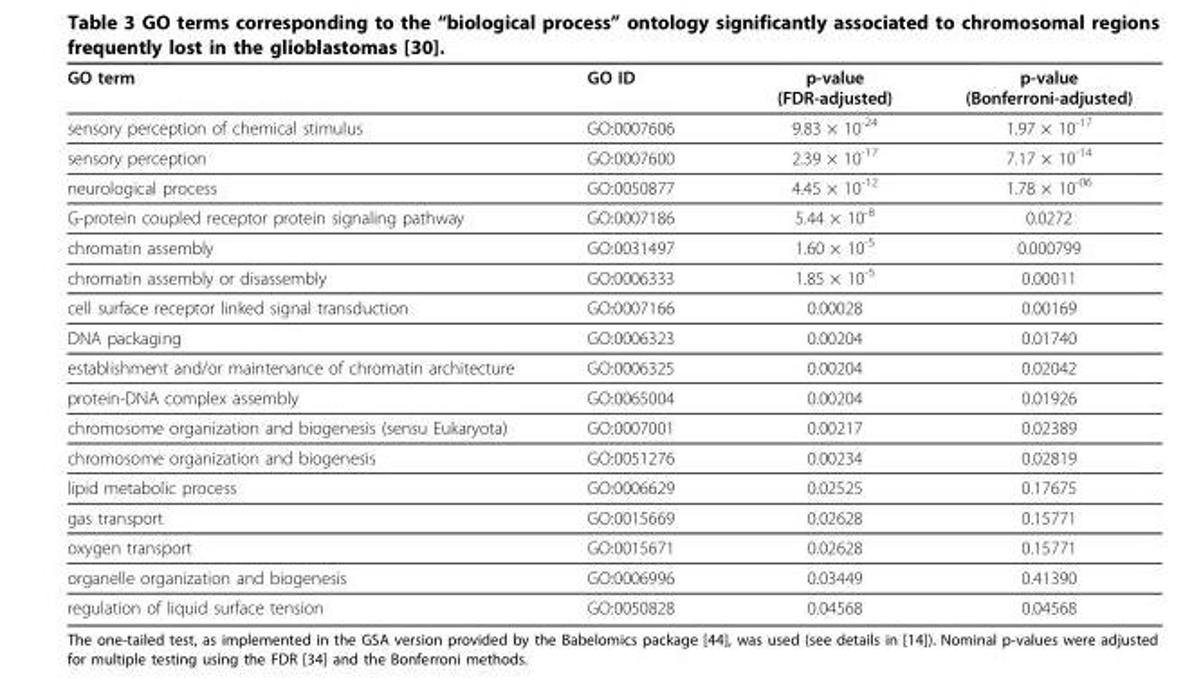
<table><thead><tr><td>GO term</td><td>GO ID</td><td>p-value (FDR-adjusted)</td><td>p-value (Bonferroni-adjusted)</td></tr></thead><tbody><tr><td>sensory perception of chemical stimulus</td><td>GO:0007606</td><td>9.83 × 10<sup>-24</sup></td><td>1.97 × 10<sup>-17</sup></td></tr><tr><td>sensory perception</td><td>GO:0007600</td><td>2.39 × 10<sup>-17</sup></td><td>7.17 × 10<sup>-14</sup></td></tr><tr><td>neurological process</td><td>GO:0050877</td><td>4.45 × 10<sup>-12</sup></td><td>1.78 × 10<sup>-06</sup></td></tr><tr><td>G-protein coupled receptor protein signaling pathway</td><td>GO:0007186</td><td>5.44 × 10<sup>-8</sup></td><td>0.0272</td></tr><tr><td>chromatin assembly</td><td>GO:0031497</td><td>1.60 × 10<sup>-5</sup></td><td>0.000799</td></tr><tr><td>chromatin assembly or disassembly</td><td>GO:0006333</td><td>1.85 × 10<sup>-5</sup></td><td>0.00011</td></tr><tr><td>cell surface receptor linked signal transduction</td><td>GO:0007166</td><td>0.00028</td><td>0.00169</td></tr><tr><td>DNA packaging</td><td>GO:0006323</td><td>0.00204</td><td>0.01740</td></tr><tr><td>establishment and/or maintenance of chromatin architecture</td><td>GO:0006325</td><td>0.00204</td><td>0.02042</td></tr><tr><td>protein-DNA complex assembly</td><td>GO:0065004</td><td>0.00204</td><td>0.01926</td></tr><tr><td>chromosome organization and biogenesis (sensu Eukaryota)</td><td>GO:0007001</td><td>0.00217</td><td>0.02389</td></tr><tr><td>chromosome organization and biogenesis</td><td>GO:0051276</td><td>0.00234</td><td>0.02819</td></tr><tr><td>lipid metabolic process</td><td>GO:0006629</td><td>0.02525</td><td>0.17675</td></tr><tr><td>gas transport</td><td>GO:0015669</td><td>0.02628</td><td>0.15771</td></tr><tr><td>oxygen transport</td><td>GO:0015671</td><td>0.02628</td><td>0.15771</td></tr><tr><td>organelle organization and biogenesis</td><td>GO:0006996</td><td>0.03449</td><td>0.41390</td></tr><tr><td>regulation of liquid surface tension</td><td>GO:0050828</td><td>0.04568</td><td>0.04568</td></tr></tbody></table>